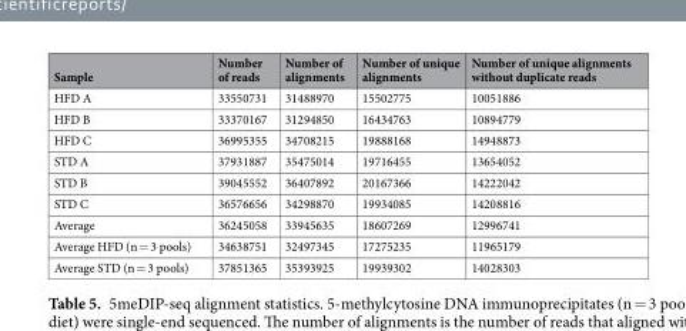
<table><thead><tr><td>Sample</td><td>Number of reads</td><td>Number of alignments</td><td>Number of unique alignments</td><td>Number of unique alignments without duplicate reads</td></tr></thead><tbody><tr><td>HFD A</td><td>33550731</td><td>31488970</td><td>15502775</td><td>10051886</td></tr><tr><td>HFD B</td><td>33370167</td><td>31294850</td><td>16434763</td><td>10894779</td></tr><tr><td>HFD C</td><td>36995355</td><td>34708215</td><td>19888168</td><td>14948873</td></tr><tr><td>STD A</td><td>37931887</td><td>35475014</td><td>19716455</td><td>13654052</td></tr><tr><td>STD B</td><td>39045552</td><td>36407892</td><td>20167366</td><td>14222042</td></tr><tr><td>STD C</td><td>36576656</td><td>34298870</td><td>19934085</td><td>14208816</td></tr><tr><td>Average</td><td>36245058</td><td>33945635</td><td>18607269</td><td>12996741</td></tr><tr><td>Average HFD (n = 3 pools)</td><td>34638751</td><td>32497345</td><td>17275235</td><td>11965179</td></tr><tr><td>Average STD (n = 3 pools)</td><td>37851365</td><td>35393925</td><td>19939302</td><td>14028303</td></tr></tbody></table>